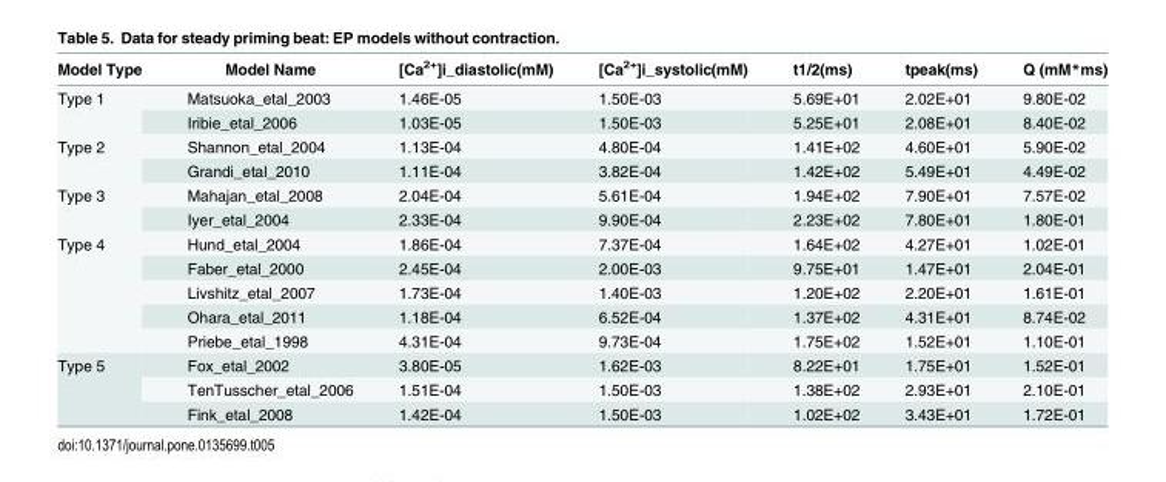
<table><thead><tr><td>Model Type</td><td>Model Name</td><td>[Ca<sup>2+</sup>]i_diastolic(mM)</td><td>[Ca<sup>2+</sup>]i_systolic(mM)</td><td>t1/2(ms)</td><td>tpeak(ms)</td><td>Q (mM*ms)</td></tr></thead><tbody><tr><td rowspan="2">Type 1</td><td>Matsuoka_etal_2003</td><td>1.46E-05</td><td>1.50E-03</td><td>5.69E+01</td><td>2.02E+01</td><td>9.80E-02</td></tr><tr><td>Iribie_etal_2006</td><td>1.03E-05</td><td>1.50E-03</td><td>5.25E+01</td><td>2.08E+01</td><td>8.40E-02</td></tr><tr><td rowspan="2">Type 2</td><td>Shannon_etal_2004</td><td>1.13E-04</td><td>4.80E-04</td><td>1.41E+02</td><td>4.60E+01</td><td>5.90E-02</td></tr><tr><td>Grandi_etal_2010</td><td>1.11E-04</td><td>3.82E-04</td><td>1.42E+02</td><td>5.49E+01</td><td>4.49E-02</td></tr><tr><td rowspan="2">Type 3</td><td>Mahajan_etal_2008</td><td>2.04E-04</td><td>5.61E-04</td><td>1.94E+02</td><td>7.90E+01</td><td>7.57E-02</td></tr><tr><td>Iyer_etal_2004</td><td>2.33E-04</td><td>9.90E-04</td><td>2.23E+02</td><td>7.80E+01</td><td>1.80E-01</td></tr><tr><td rowspan="5">Type 4</td><td>Hund_etal_2004</td><td>1.86E-04</td><td>7.37E-04</td><td>1.64E+02</td><td>4.27E+01</td><td>1.02E-01</td></tr><tr><td>Faber_etal_2000</td><td>2.45E-04</td><td>2.00E-03</td><td>9.75E+01</td><td>1.47E+01</td><td>2.04E-01</td></tr><tr><td>Livshitz_etal_2007</td><td>1.73E-04</td><td>1.40E-03</td><td>1.20E+02</td><td>2.20E+01</td><td>1.61E-01</td></tr><tr><td>Ohara_etal_2011</td><td>1.18E-04</td><td>6.52E-04</td><td>1.37E+02</td><td>4.31E+01</td><td>8.74E-02</td></tr><tr><td>Priebe_etal_1998</td><td>4.31E-04</td><td>9.73E-04</td><td>1.75E+02</td><td>1.52E+01</td><td>1.10E-01</td></tr><tr><td rowspan="3">Type 5</td><td>Fox_etal_2002</td><td>3.80E-05</td><td>1.62E-03</td><td>8.22E+01</td><td>1.75E+01</td><td>1.52E-01</td></tr><tr><td>TenTusscher_etal_2006</td><td>1.51E-04</td><td>1.50E-03</td><td>1.38E+02</td><td>2.93E+01</td><td>2.10E-01</td></tr><tr><td>Fink_etal_2008</td><td>1.42E-04</td><td>1.50E-03</td><td>1.02E+02</td><td>3.43E+01</td><td>1.72E-01</td></tr></tbody></table>